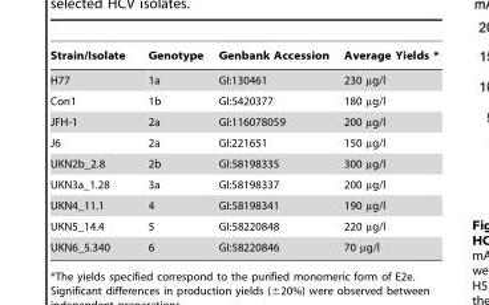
<table><thead><tr><td>Strain/Isolate</td><td>Genotype</td><td>Genbank Accession</td><td>Average Yields *</td></tr></thead><tbody><tr><td>H77</td><td>1a</td><td>GI:130461</td><td>230 µg/l</td></tr><tr><td>Con1</td><td>1b</td><td>GI:5420377</td><td>180 µg/l</td></tr><tr><td>JFH-1</td><td>2a</td><td>GI:116078059</td><td>200 µg/l</td></tr><tr><td>J6</td><td>2a</td><td>GI:221651</td><td>150 µg/l</td></tr><tr><td>UKN2b_2.8</td><td>2b</td><td>GI:58198335</td><td>300 µg/l</td></tr><tr><td>UKN3a_1.28</td><td>3a</td><td>GI:58198337</td><td>200 µg/l</td></tr><tr><td>UKN4_11.1</td><td>4</td><td>GI:58198341</td><td>190 µg/l</td></tr><tr><td>UKN5_14.4</td><td>5</td><td>GI:58220848</td><td>220 µg/l</td></tr><tr><td>UKN6_5.340</td><td>6</td><td>GI:58220846</td><td>70 µg/l</td></tr></tbody></table>